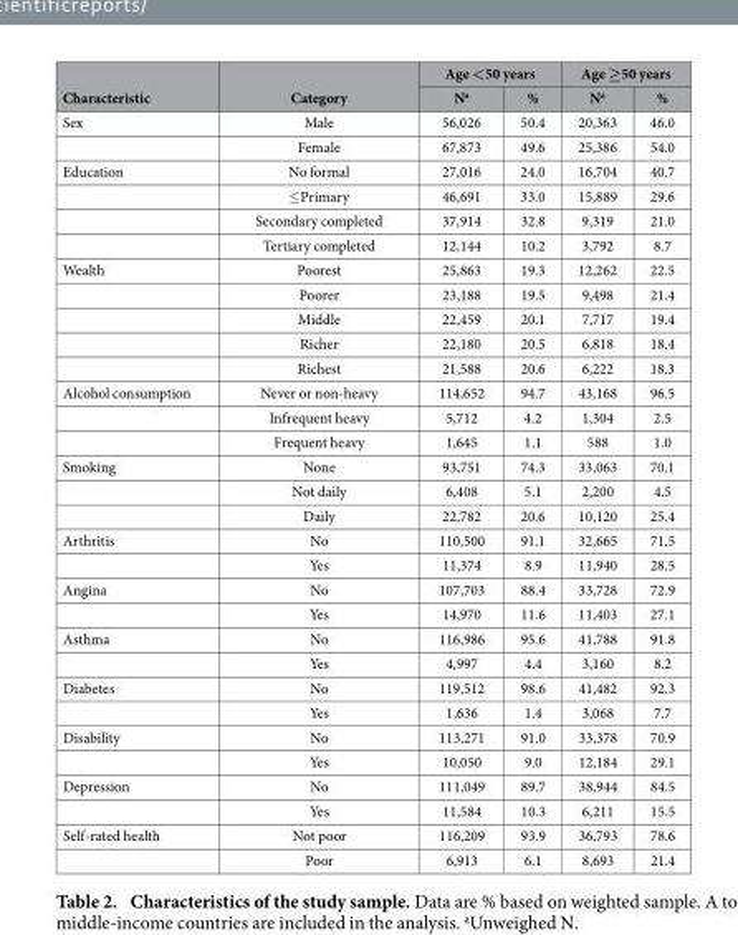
<table><thead><tr><td rowspan="2">Characteristic</td><td rowspan="2">Category</td><td colspan="2">Age &lt;50 years</td><td colspan="2">Age ≥50 years</td></tr><tr><td>N<sup>a</sup></td><td>%</td><td>N<sup>a</sup></td><td>%</td></tr></thead><tbody><tr><td rowspan="2">Sex</td><td>Male</td><td>56,026</td><td>50.4</td><td>20,363</td><td>46.0</td></tr><tr><td>Female</td><td>67,873</td><td>49.6</td><td>25,386</td><td>54.0</td></tr><tr><td rowspan="4">Education</td><td>No formal</td><td>27,016</td><td>24.0</td><td>16,704</td><td>40.7</td></tr><tr><td>≤ Primary</td><td>46,691</td><td>33.0</td><td>15,889</td><td>29.6</td></tr><tr><td>Secondary completed</td><td>37,914</td><td>32.8</td><td>9,319</td><td>21.0</td></tr><tr><td>Tertiary completed</td><td>12,144</td><td>10.2</td><td>3,792</td><td>8.7</td></tr><tr><td rowspan="5">Wealth</td><td>Poorest</td><td>25,863</td><td>19.3</td><td>12,262</td><td>22.5</td></tr><tr><td>Poorer</td><td>23,188</td><td>19.5</td><td>9,498</td><td>21.4</td></tr><tr><td>Middle</td><td>22,459</td><td>20.1</td><td>7,717</td><td>19.4</td></tr><tr><td>Richer</td><td>22,180</td><td>20.5</td><td>6,818</td><td>18.4</td></tr><tr><td>Richest</td><td>21,588</td><td>20.6</td><td>6,222</td><td>18.3</td></tr><tr><td rowspan="3">Alcohol consumption</td><td>Never or non-heavy</td><td>114,652</td><td>94.7</td><td>43,168</td><td>96.5</td></tr><tr><td>Infrequent heavy</td><td>5,712</td><td>4.2</td><td>1,304</td><td>2.5</td></tr><tr><td>Frequent heavy</td><td>1,645</td><td>1.1</td><td>588</td><td>1.0</td></tr><tr><td rowspan="3">Smoking</td><td>None</td><td>93,751</td><td>74.3</td><td>33,063</td><td>70.1</td></tr><tr><td>Not daily</td><td>6,408</td><td>5.1</td><td>2,200</td><td>4.5</td></tr><tr><td>Daily</td><td>22,782</td><td>20.6</td><td>10,120</td><td>25.4</td></tr><tr><td rowspan="2">Arthritis</td><td>No</td><td>110,500</td><td>91.1</td><td>32,665</td><td>71.5</td></tr><tr><td>Yes</td><td>11,374</td><td>8.9</td><td>11,940</td><td>28.5</td></tr><tr><td rowspan="2">Angina</td><td>No</td><td>107,703</td><td>88.4</td><td>33,728</td><td>72.9</td></tr><tr><td>Yes</td><td>14,970</td><td>11.6</td><td>11,403</td><td>27.1</td></tr><tr><td rowspan="2">Asthma</td><td>No</td><td>116,986</td><td>95.6</td><td>41,788</td><td>91.8</td></tr><tr><td>Yes</td><td>4,997</td><td>4.4</td><td>3,160</td><td>8.2</td></tr><tr><td rowspan="2">Diabetes</td><td>No</td><td>119,512</td><td>98.6</td><td>41,482</td><td>92.3</td></tr><tr><td>Yes</td><td>1,636</td><td>1.4</td><td>3,068</td><td>7.7</td></tr><tr><td rowspan="2">Disability</td><td>No</td><td>113,271</td><td>91.0</td><td>33,378</td><td>70.9</td></tr><tr><td>Yes</td><td>10,050</td><td>9.0</td><td>12,184</td><td>29.1</td></tr><tr><td rowspan="2">Depression</td><td>No</td><td>111,049</td><td>89.7</td><td>38,944</td><td>84.5</td></tr><tr><td>Yes</td><td>11,584</td><td>10.3</td><td>6,211</td><td>15.5</td></tr><tr><td rowspan="2">Self-rated health</td><td>Not poor</td><td>116,209</td><td>93.9</td><td>36,793</td><td>78.6</td></tr><tr><td>Poor</td><td>6,913</td><td>6.1</td><td>8,693</td><td>21.4</td></tr></tbody></table>